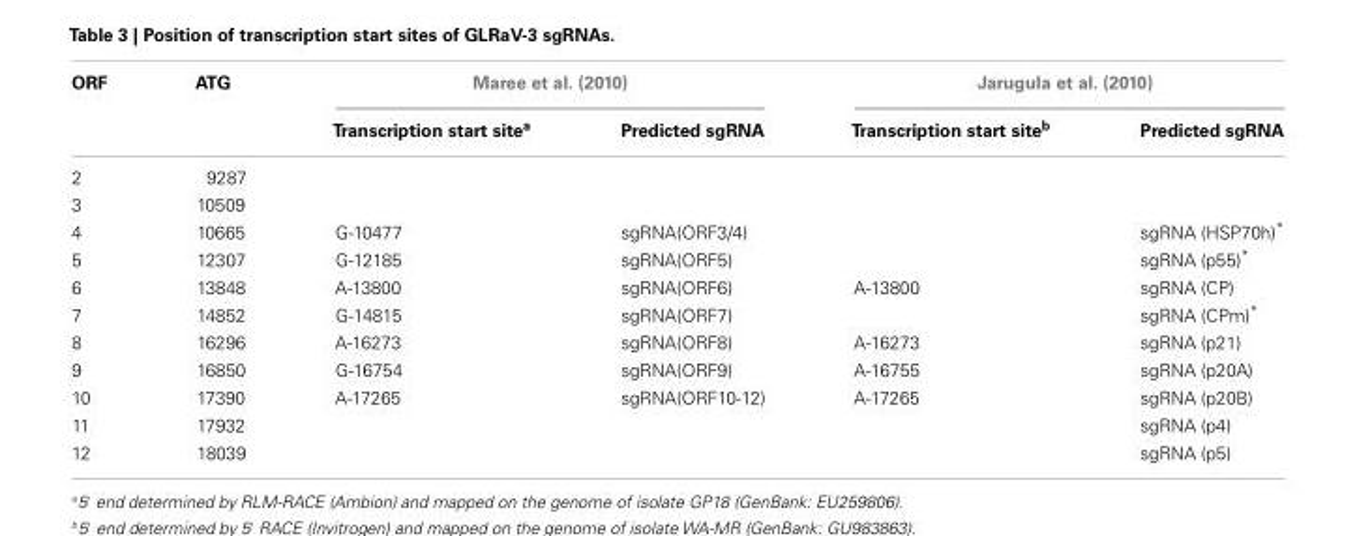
<table><thead><tr><td rowspan="2">ORF</td><td rowspan="2">ATG</td><td colspan="2">Maree et al. (2010)</td><td colspan="2">Jarugula et al. (2010)</td></tr><tr><td>Transcription start site<sup>a</sup></td><td>Predicted sgRNA</td><td>Transcription start site<sup>b</sup></td><td>Predicted sgRNA</td></tr></thead><tbody><tr><td>2</td><td>9287</td><td></td><td></td><td></td><td></td></tr><tr><td>3</td><td>10509</td><td></td><td></td><td></td><td></td></tr><tr><td>4</td><td>10665</td><td>G-10477</td><td>sgRNA(ORF3/4)</td><td></td><td>sgRNA (HSP70h)*</td></tr><tr><td>5</td><td>12307</td><td>G-12185</td><td>sgRNA(ORF5)</td><td></td><td>sgRNA (p55)*</td></tr><tr><td>6</td><td>13848</td><td>A-13800</td><td>sgRNA(ORF6)</td><td>A-13800</td><td>sgRNA (CP)</td></tr><tr><td>7</td><td>14852</td><td>G-14815</td><td>sgRNA(ORF7)</td><td></td><td>sgRNA (CPm)*</td></tr><tr><td>8</td><td>16296</td><td>A-16273</td><td>sgRNA(ORF8)</td><td>A-16273</td><td>sgRNA (p21)</td></tr><tr><td>9</td><td>16850</td><td>G-16754</td><td>sgRNA(ORF9)</td><td>A-16755</td><td>sgRNA (p20A)</td></tr><tr><td>10</td><td>17390</td><td>A-17265</td><td>sgRNA(ORF10-12)</td><td>A-17265</td><td>sgRNA (p20B)</td></tr><tr><td>11</td><td>17932</td><td></td><td></td><td></td><td>sgRNA (p4)</td></tr><tr><td>12</td><td>18039</td><td></td><td></td><td></td><td>sgRNA (p5)</td></tr></tbody></table>